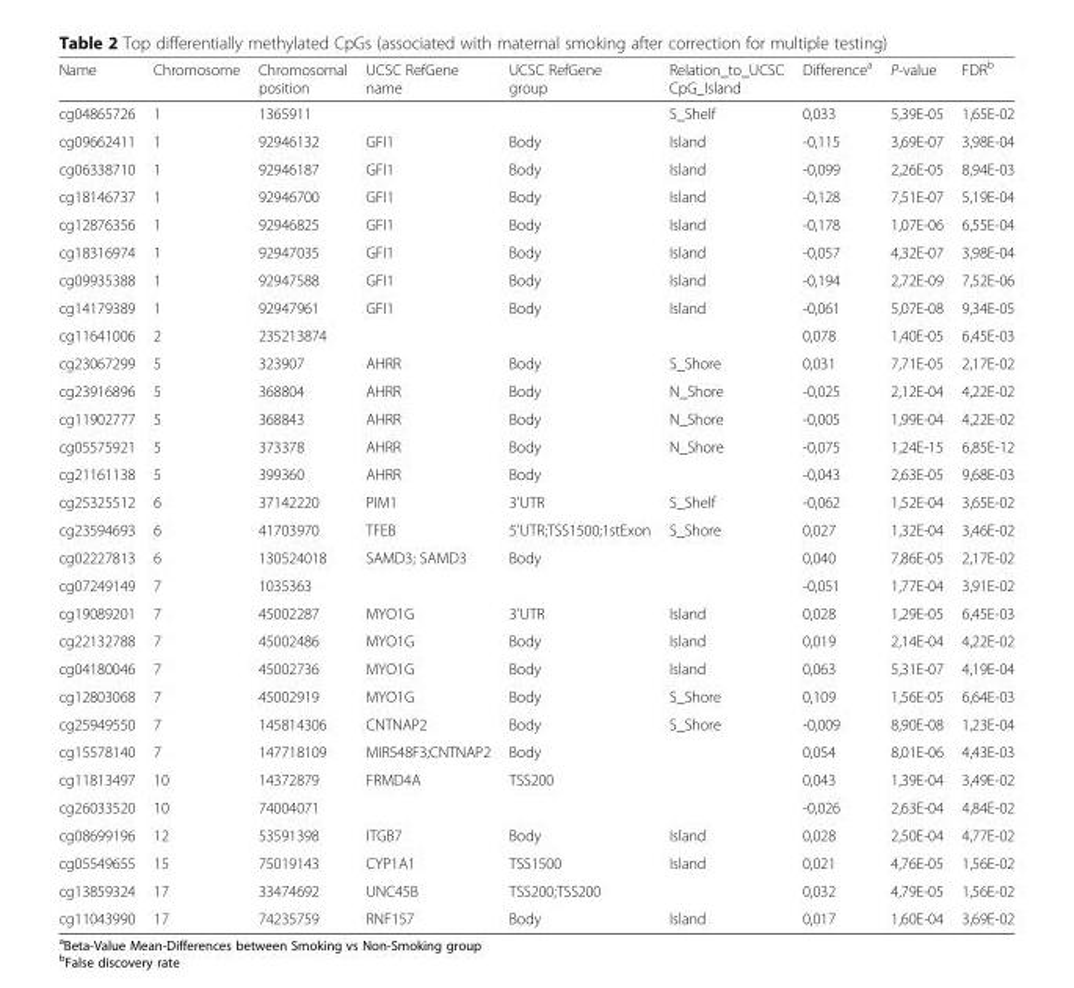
<table><thead><tr><td>Name</td><td>Chromosome</td><td>Chromosomal position</td><td>UCSC RefGene name</td><td>UCSC RefGene group</td><td>Relation_to_UCSC CpG_Island</td><td>Difference<sup>a</sup></td><td>P-value</td><td>FDR<sup>b</sup></td></tr></thead><tbody><tr><td>cg04865726</td><td>1</td><td>1365911</td><td></td><td></td><td>S_Shelf</td><td>0,033</td><td>5,39E-05</td><td>1,65E-02</td></tr><tr><td>cg09662411</td><td>1</td><td>92946132</td><td>GFI1</td><td>Body</td><td>Island</td><td>-0,115</td><td>3,69E-07</td><td>3,98E-04</td></tr><tr><td>cg06338710</td><td>1</td><td>92946187</td><td>GFI1</td><td>Body</td><td>Island</td><td>-0,099</td><td>2,26E-05</td><td>8,94E-03</td></tr><tr><td>cg18146737</td><td>1</td><td>92946700</td><td>GFI1</td><td>Body</td><td>Island</td><td>-0,128</td><td>7,51E-07</td><td>5,19E-04</td></tr><tr><td>cg12876356</td><td>1</td><td>92946825</td><td>GFI1</td><td>Body</td><td>Island</td><td>-0,178</td><td>1,07E-06</td><td>6,55E-04</td></tr><tr><td>cg18316974</td><td>1</td><td>92947035</td><td>GFI1</td><td>Body</td><td>Island</td><td>-0,057</td><td>4,32E-07</td><td>3,98E-04</td></tr><tr><td>cg09935388</td><td>1</td><td>92947588</td><td>GFI1</td><td>Body</td><td>Island</td><td>-0,194</td><td>2,72E-09</td><td>7,52E-06</td></tr><tr><td>cg14179389</td><td>1</td><td>92947961</td><td>GFI1</td><td>Body</td><td>Island</td><td>-0,061</td><td>5,07E-08</td><td>9,34E-05</td></tr><tr><td>cg11641006</td><td>2</td><td>235213874</td><td></td><td></td><td></td><td>0,078</td><td>1,40E-05</td><td>6,45E-03</td></tr><tr><td>cg23067299</td><td>5</td><td>323907</td><td>AHRR</td><td>Body</td><td>S_Shore</td><td>0,031</td><td>7,71E-05</td><td>2,17E-02</td></tr><tr><td>cg23916896</td><td>5</td><td>368804</td><td>AHRR</td><td>Body</td><td>N_Shore</td><td>-0,025</td><td>2,12E-04</td><td>4,22E-02</td></tr><tr><td>cg11902777</td><td>5</td><td>368843</td><td>AHRR</td><td>Body</td><td>N_Shore</td><td>-0,005</td><td>1,99E-04</td><td>4,22E-02</td></tr><tr><td>cg05575921</td><td>5</td><td>373378</td><td>AHRR</td><td>Body</td><td>N_Shore</td><td>-0,075</td><td>1,24E-15</td><td>6,85E-12</td></tr><tr><td>cg21161138</td><td>5</td><td>399360</td><td>AHRR</td><td>Body</td><td></td><td>-0,043</td><td>2,63E-05</td><td>9,68E-03</td></tr><tr><td>cg25325512</td><td>6</td><td>37142220</td><td>PIM1</td><td>3&#x27;UTR</td><td>S_Shelf</td><td>-0,062</td><td>1,52E-04</td><td>3,65E-02</td></tr><tr><td>cg23594693</td><td>6</td><td>41703970</td><td>TFEB</td><td>5&#x27;UTR;TSS1500;1stExon</td><td>S_Shore</td><td>0,027</td><td>1,32E-04</td><td>3,46E-02</td></tr><tr><td>cg02227813</td><td>6</td><td>130524018</td><td>SAMD3; SAMD3</td><td>Body</td><td></td><td>0,040</td><td>7,86E-05</td><td>2,17E-02</td></tr><tr><td>cg07249149</td><td>7</td><td>1035363</td><td></td><td></td><td></td><td>-0,051</td><td>1,77E-04</td><td>3,91E-02</td></tr><tr><td>cg19089201</td><td>7</td><td>45002287</td><td>MYO1G</td><td>3&#x27;UTR</td><td>Island</td><td>0,028</td><td>1,29E-05</td><td>6,45E-03</td></tr><tr><td>cg22132788</td><td>7</td><td>45002486</td><td>MYO1G</td><td>Body</td><td>Island</td><td>0,019</td><td>2,14E-04</td><td>4,22E-02</td></tr><tr><td>cg04180046</td><td>7</td><td>45002736</td><td>MYO1G</td><td>Body</td><td>Island</td><td>0,063</td><td>5,31E-07</td><td>4,19E-04</td></tr><tr><td>cg12803068</td><td>7</td><td>45002919</td><td>MYO1G</td><td>Body</td><td>S_Shore</td><td>0,109</td><td>1,56E-05</td><td>6,64E-03</td></tr><tr><td>cg25949550</td><td>7</td><td>145814306</td><td>CNTNAP2</td><td>Body</td><td>S_Shore</td><td>-0,009</td><td>8,90E-08</td><td>1,23E-04</td></tr><tr><td>cg15578140</td><td>7</td><td>147718109</td><td>MIR548F3;CNTNAP2</td><td>Body</td><td></td><td>0,054</td><td>8,01E-06</td><td>4,43E-03</td></tr><tr><td>cg11813497</td><td>10</td><td>14372879</td><td>FRMD4A</td><td>TSS200</td><td></td><td>0,043</td><td>1,39E-04</td><td>3,49E-02</td></tr><tr><td>cg26033520</td><td>10</td><td>74004071</td><td></td><td></td><td></td><td>-0,026</td><td>2,63E-04</td><td>4,84E-02</td></tr><tr><td>cg08699196</td><td>12</td><td>53591398</td><td>ITGB7</td><td>Body</td><td>Island</td><td>0,028</td><td>2,50E-04</td><td>4,77E-02</td></tr><tr><td>cg05549655</td><td>15</td><td>75019143</td><td>CYP1A1</td><td>TSS1500</td><td>Island</td><td>0,021</td><td>4,76E-05</td><td>1,56E-02</td></tr><tr><td>cg13859324</td><td>17</td><td>33474692</td><td>UNC45B</td><td>TSS200;TSS200</td><td></td><td>0,032</td><td>4,79E-05</td><td>1,56E-02</td></tr><tr><td>cg11043990</td><td>17</td><td>74235759</td><td>RNF157</td><td>Body</td><td>Island</td><td>0,017</td><td>1,60E-04</td><td>3,69E-02</td></tr></tbody></table>